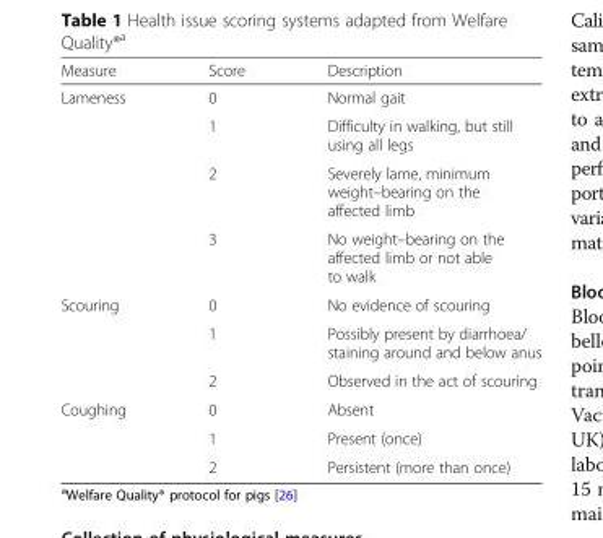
<table><thead><tr><td>Measure</td><td>Score</td><td>Description</td></tr></thead><tbody><tr><td rowspan="4">Lameness</td><td>0</td><td>Normal gait</td></tr><tr><td>1</td><td>Difficulty in walking, but still using all legs</td></tr><tr><td>2</td><td>Severely lame, minimum weight–bearing on the affected limb</td></tr><tr><td>3</td><td>No weight–bearing on the affected limb or not able to walk</td></tr><tr><td rowspan="3">Scouring</td><td>0</td><td>No evidence of scouring</td></tr><tr><td>1</td><td>Possibly present by diarrhoea/ staining around and below anus</td></tr><tr><td>2</td><td>Observed in the act of scouring</td></tr><tr><td rowspan="3">Coughing</td><td>0</td><td>Absent</td></tr><tr><td>1</td><td>Present (once)</td></tr><tr><td>2</td><td>Persistent (more than once)</td></tr></tbody></table>